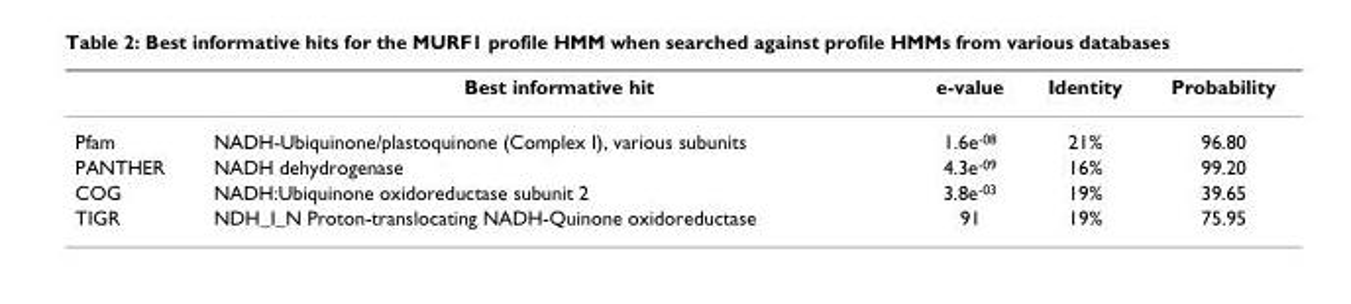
<table><thead><tr><td></td><td>Best informative hit</td><td>e-value</td><td>Identity</td><td>Probability</td></tr></thead><tbody><tr><td>Pfam</td><td>NADH-Ubiquinone/plastoquinone (Complex I), various subunits</td><td>1.6e<sup>-08</sup></td><td>21%</td><td>96.80</td></tr><tr><td>PANTHER</td><td>NADH dehydrogenase</td><td>4.3e<sup>-09</sup></td><td>16%</td><td>99.20</td></tr><tr><td>COG</td><td>NADH:Ubiquinone oxidoreductase subunit 2</td><td>3.8e<sup>-03</sup></td><td>19%</td><td>39.65</td></tr><tr><td>TIGR</td><td>NDH_I_N Proton-translocating NADH-Quinone oxidoreductase</td><td>91</td><td>19%</td><td>75.95</td></tr></tbody></table>